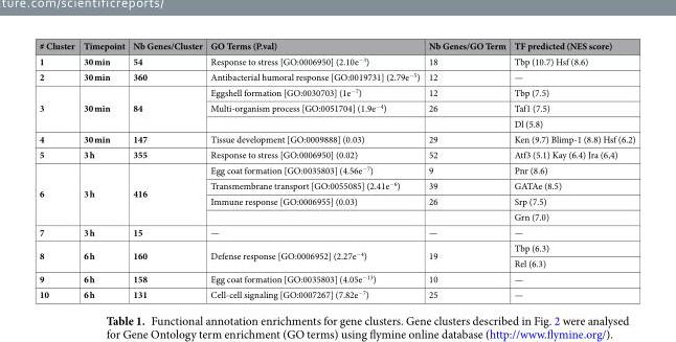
<table><thead><tr><td># Cluster</td><td>Timepoint</td><td>Nb Genes/Cluster</td><td>GO Terms (P.val)</td><td>Nb Genes/GO Term</td><td>TF predicted (NES score)</td></tr></thead><tbody><tr><td>1</td><td>30 min</td><td>54</td><td>Response to stress [GO:0006950] (2.10e<sup>−3</sup>)</td><td>18</td><td>Tbp (10.7) Hsf (8.6)</td></tr><tr><td>2</td><td>30 min</td><td>360</td><td>Antibacterial humoral response [GO:0019731] (2.79e<sup>−5</sup>)</td><td>12</td><td>—</td></tr><tr><td rowspan="3">3</td><td rowspan="3">30 min</td><td rowspan="3">84</td><td>Eggshell formation [GO:0030703] (1e<sup>−7</sup>)</td><td>12</td><td>Tbp (7.5)</td></tr><tr><td>Multi-organism process [GO:0051704] (1.9e<sup>−4</sup>)</td><td>26</td><td>Taf1 (7.5)</td></tr><tr><td></td><td></td><td>Dl (5.8)</td></tr><tr><td>4</td><td>30 min</td><td>147</td><td>Tissue development [GO:0009888] (0.03)</td><td>29</td><td>Ken (9.7) Blimp-1 (8.8) Hsf (6.2)</td></tr><tr><td>5</td><td>3 h</td><td>355</td><td>Response to stress [GO:0006950] (0.02)</td><td>52</td><td>Atf3 (5.1) Kay (6.4) Jra (6,4)</td></tr><tr><td rowspan="4">6</td><td rowspan="4">3 h</td><td rowspan="4">416</td><td>Egg coat formation [GO:0035803] (4.56e<sup>−7</sup>)</td><td>9</td><td>Pnr (8.6)</td></tr><tr><td>Transmembrane transport [GO:0055085] (2.41e<sup>−6</sup>)</td><td>39</td><td>GATAe (8.5)</td></tr><tr><td>Immune response [GO:0006955] (0.03)</td><td>26</td><td>Srp (7.5)</td></tr><tr><td></td><td></td><td>Grn (7.0)</td></tr><tr><td>7</td><td>3 h</td><td>15</td><td>—</td><td>—</td><td>—</td></tr><tr><td rowspan="2">8</td><td rowspan="2">6 h</td><td rowspan="2">160</td><td rowspan="2">Defense response [GO:0006952] (2.27e<sup>−4</sup>)</td><td rowspan="2">19</td><td>Tbp (6.3)</td></tr><tr><td>Rel (6.3)</td></tr><tr><td>9</td><td>6 h</td><td>158</td><td>Egg coat formation [GO:0035803] (4.05e<sup>−13</sup>)</td><td>10</td><td>—</td></tr><tr><td>10</td><td>6 h</td><td>131</td><td>Cell-cell signaling [GO:0007267] (7.82e<sup>−7</sup>)</td><td>25</td><td>—</td></tr></tbody></table>